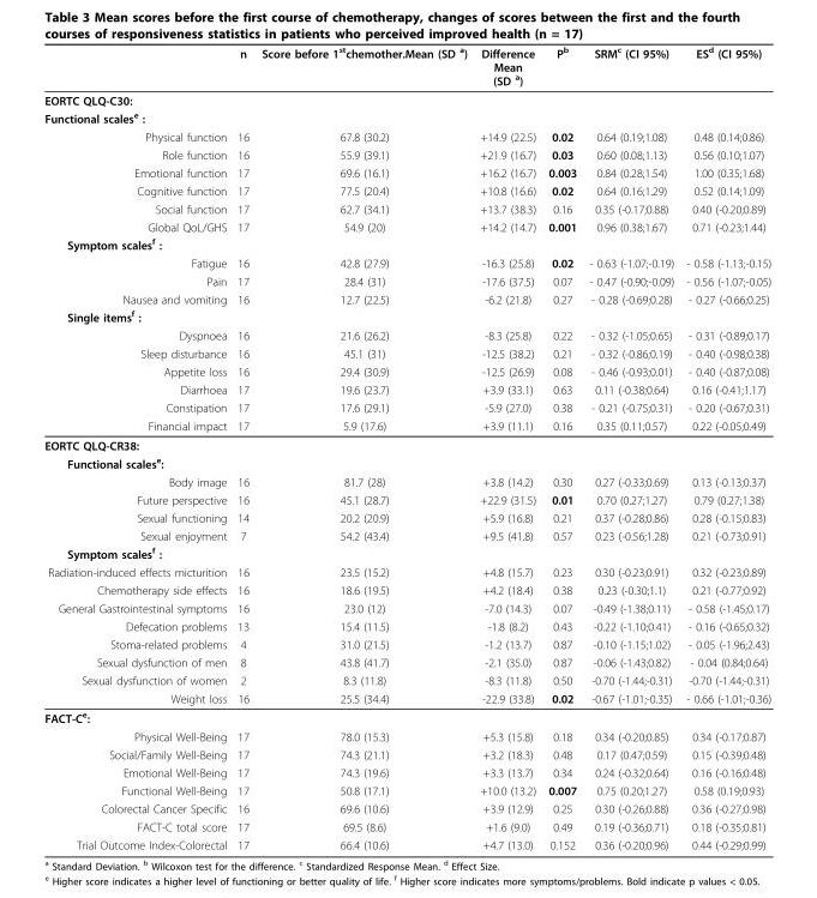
<table><thead><tr><td></td><td>n</td><td>Score before 1<sup>st</sup>chemother.Mean (SD <sup>a</sup>)</td><td>Difference Mean (SD <sup>a</sup>)</td><td>P<sup>b</sup></td><td>SRM<sup>c</sup> (CI 95%)</td><td>ES<sup>d</sup> (CI 95%)</td></tr></thead><tbody><tr><td colspan="7">EORTC QLQ-C30:</td></tr><tr><td colspan="7">Functional scales<sup>e</sup> :</td></tr><tr><td>Physical function</td><td>16</td><td>67.8 (30.2)</td><td>+14.9 (22.5)</td><td>0.02</td><td>0.64 (0.19;1.08)</td><td>0.48 (0.14;0.86)</td></tr><tr><td>Role function</td><td>16</td><td>55.9 (39.1)</td><td>+21.9 (16.7)</td><td>0.03</td><td>0.60 (0.08;1.13)</td><td>0.56 (0.10;1.07)</td></tr><tr><td>Emotional function</td><td>17</td><td>69.6 (16.1)</td><td>+16.2 (16.7)</td><td>0.003</td><td>0.84 (0.28;1.54)</td><td>1.00 (0.35;1.68)</td></tr><tr><td>Cognitive function</td><td>17</td><td>77.5 (20.4)</td><td>+10.8 (16.6)</td><td>0.02</td><td>0.64 (0.16;1.29)</td><td>0.52 (0.14;1.09)</td></tr><tr><td>Social function</td><td>17</td><td>62.7 (34.1)</td><td>+13.7 (38.3)</td><td>0.16</td><td>0.35 (-0.17;0.88)</td><td>0.40 (-0.20;0.89)</td></tr><tr><td>Global QoL/GHS</td><td>17</td><td>54.9 (20)</td><td>+14.2 (14.7)</td><td>0.001</td><td>0.96 (0.38;1.67)</td><td>0.71 (-0.23;1.44)</td></tr><tr><td colspan="7">Symptom scales<sup>f</sup> :</td></tr><tr><td>Fatigue</td><td>16</td><td>42.8 (27.9)</td><td>-16.3 (25.8)</td><td>0.02</td><td>- 0.63 (-1.07;-0.19)</td><td>- 0.58 (-1.13;-0.15)</td></tr><tr><td>Pain</td><td>17</td><td>28.4 (31)</td><td>-17.6 (37.5)</td><td>0.07</td><td>- 0.47 (-0.90;-0.09)</td><td>- 0.56 (-1.07;-0.05)</td></tr><tr><td>Nausea and vomiting</td><td>16</td><td>12.7 (22.5)</td><td>-6.2 (21.8)</td><td>0.27</td><td>- 0.28 (-0.69;0.28)</td><td>- 0.27 (-0.66;0.25)</td></tr><tr><td colspan="7">Single items<sup>f</sup> :</td></tr><tr><td>Dyspnoea</td><td>16</td><td>21.6 (26.2)</td><td>-8.3 (25.8)</td><td>0.22</td><td>- 0.32 (-1.05;0.65)</td><td>- 0.31 (-0.89;0.17)</td></tr><tr><td>Sleep disturbance</td><td>16</td><td>45.1 (31)</td><td>-12.5 (38.2)</td><td>0.21</td><td>- 0.32 (-0.86;0.19)</td><td>- 0.40 (-0.98;0.38)</td></tr><tr><td>Appetite loss</td><td>16</td><td>29.4 (30.9)</td><td>-12.5 (26.9)</td><td>0.08</td><td>- 0.46 (-0.93;0.01)</td><td>- 0.40 (-0.87;0.08)</td></tr><tr><td>Diarrhoea</td><td>17</td><td>19.6 (23.7)</td><td>+3.9 (33.1)</td><td>0.63</td><td>0.11 (-0.38;0.64)</td><td>0.16 (-0.41;1.17)</td></tr><tr><td>Constipation</td><td>17</td><td>17.6 (29.1)</td><td>-5.9 (27.0)</td><td>0.38</td><td>- 0.21 (-0.75;0.31)</td><td>- 0.20 (-0.67;0.31)</td></tr><tr><td>Financial impact</td><td>17</td><td>5.9 (17.6)</td><td>+3.9 (11.1)</td><td>0.16</td><td>0.35 (0.11;0.57)</td><td>0.22 (-0.05;0.49)</td></tr><tr><td colspan="7">EORTC QLQ-CR38:</td></tr><tr><td colspan="7">Functional scales<sup>e</sup>:</td></tr><tr><td>Body image</td><td>16</td><td>81.7 (28)</td><td>+3.8 (14.2)</td><td>0.30</td><td>0.27 (-0.33;0.69)</td><td>0.13 (-0.13;0.37)</td></tr><tr><td>Future perspective</td><td>16</td><td>45.1 (28.7)</td><td>+22.9 (31.5)</td><td>0.01</td><td>0.70 (0.27;1.27)</td><td>0.79 (0.27;1.38)</td></tr><tr><td>Sexual functioning</td><td>14</td><td>20.2 (20.9)</td><td>+5.9 (16.8)</td><td>0.21</td><td>0.37 (-0.28;0.86)</td><td>0.28 (-0.15;0.83)</td></tr><tr><td>Sexual enjoyment</td><td>7</td><td>54.2 (43.4)</td><td>+9.5 (41.8)</td><td>0.57</td><td>0.23 (-0.56;1.28)</td><td>0.21 (-0.73;0.91)</td></tr><tr><td colspan="7">Symptom scales<sup>f</sup> :</td></tr><tr><td>Radiation-induced effects micturition</td><td>16</td><td>23.5 (15.2)</td><td>+4.8 (15.7)</td><td>0.23</td><td>0.30 (-0.23;0.91)</td><td>0.32 (-0.23;0.89)</td></tr><tr><td>Chemotherapy side effects</td><td>16</td><td>18.6 (19.5)</td><td>+4.2 (18.4)</td><td>0.38</td><td>0.23 (-0.30;1.1)</td><td>0.21 (-0.77;0.92)</td></tr><tr><td>General Gastrointestinal symptoms</td><td>16</td><td>23.0 (12)</td><td>-7.0 (14.3)</td><td>0.07</td><td>-0.49 (-1.38;0.11)</td><td>- 0.58 (-1.45;0.17)</td></tr><tr><td>Defecation problems</td><td>13</td><td>15.4 (11.5)</td><td>-1.8 (8.2)</td><td>0.43</td><td>-0.22 (-1.10;0.41)</td><td>- 0.16 (-0.65;0.32)</td></tr><tr><td>Stoma-related problems</td><td>4</td><td>31.0 (21.5)</td><td>-1.2 (13.7)</td><td>0.87</td><td>-0.10 (-1.15;1.02)</td><td>- 0.05 (-1.96;2.43)</td></tr><tr><td>Sexual dysfunction of men</td><td>8</td><td>43.8 (41.7)</td><td>-2.1 (35.0)</td><td>0.87</td><td>-0.06 (-1.43;0.82)</td><td>- 0.04 (0.84;0.64)</td></tr><tr><td>Sexual dysfunction of women</td><td>2</td><td>8.3 (11.8)</td><td>-8.3 (11.8)</td><td>0.50</td><td>-0.70 (-1.44;-0.31)</td><td>-0.70 (-1.44;-0.31)</td></tr><tr><td>Weight loss</td><td>16</td><td>25.5 (34.4)</td><td>-22.9 (33.8)</td><td>0.02</td><td>-0.67 (-1.01;-0.35)</td><td>- 0.66 (-1.01;-0.36)</td></tr><tr><td colspan="7">FACT-C<sup>e</sup>:</td></tr><tr><td>Physical Well-Being</td><td>17</td><td>78.0 (15.3)</td><td>+5.3 (15.8)</td><td>0.18</td><td>0.34 (-0.20;0.85)</td><td>0.34 (-0.17;0.87)</td></tr><tr><td>Social/Family Well-Being</td><td>17</td><td>74.3 (21.1)</td><td>+3.2 (18.3)</td><td>0.48</td><td>0.17 (0.47;0.59)</td><td>0.15 (-0.39;0.48)</td></tr><tr><td>Emotional Well-Being</td><td>17</td><td>74.3 (19.6)</td><td>+3.3 (13.7)</td><td>0.34</td><td>0.24 (-0.32;0.64)</td><td>0.16 (-0.16;0.48)</td></tr><tr><td>Functional Well-Being</td><td>17</td><td>50.8 (17.1)</td><td>+10.0 (13.2)</td><td>0.007</td><td>0.75 (0.20;1.27)</td><td>0.58 (0.19;0.93)</td></tr><tr><td>Colorectal Cancer Specific</td><td>16</td><td>69.6 (10.6)</td><td>+3.9 (12.9)</td><td>0.25</td><td>0.30 (-0.26;0.88)</td><td>0.36 (-0.27;0.98)</td></tr><tr><td>FACT-C total score</td><td>17</td><td>69.5 (8.6)</td><td>+1.6 (9.0)</td><td>0.49</td><td>0.19 (-0.36;0.71)</td><td>0.18 (-0.35;0.81)</td></tr><tr><td>Trial Outcome Index-Colorectal</td><td>17</td><td>66.4 (10.6)</td><td>+4.7 (13.0)</td><td>0.152</td><td>0.36 (-0.20;0.96)</td><td>0.44 (-0.29;0.99)</td></tr></tbody></table>